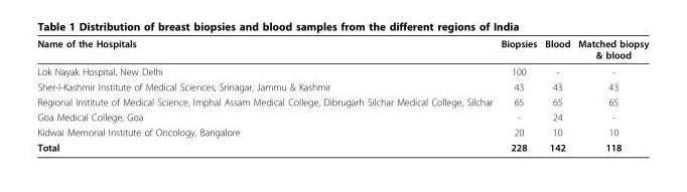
<table><thead><tr><td>Name of the Hospitals</td><td>Biopsies</td><td>Blood</td><td>Matched biopsy &amp; blood</td></tr></thead><tbody><tr><td>Lok Nayak Hospital, New Delhi</td><td>100</td><td>-</td><td>-</td></tr><tr><td>Sher-I-Kashmir Institute of Medical Sciences, Srinagar, Jammu &amp; Kashmir</td><td>43</td><td>43</td><td>43</td></tr><tr><td>Regional Institute of Medical Science, Imphal Assam Medical College, Dibrugarh Silchar Medical College, Silchar</td><td>65</td><td>65</td><td>65</td></tr><tr><td>Goa Medical College, Goa</td><td>-</td><td>24</td><td>-</td></tr><tr><td>Kidwai Memorial Institute of Oncology, Bangalore</td><td>20</td><td>10</td><td>10</td></tr><tr><td>Total</td><td>228</td><td>142</td><td>118</td></tr></tbody></table>